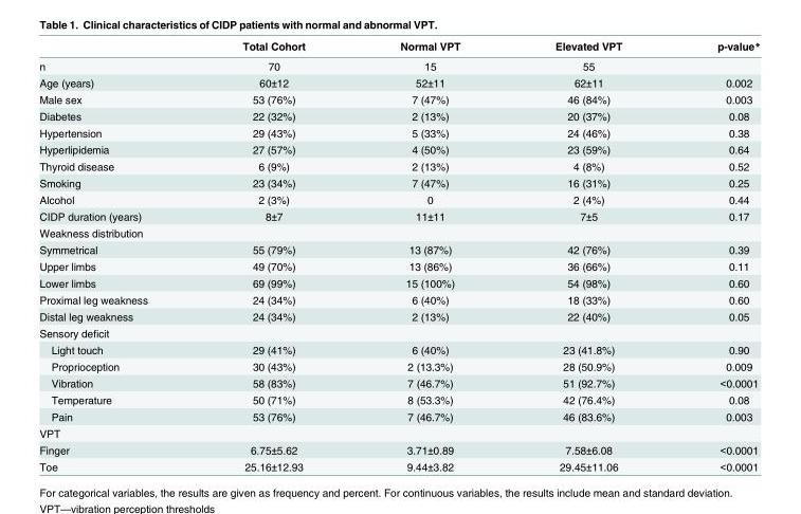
<table><thead><tr><td></td><td>Total Cohort</td><td>Normal VPT</td><td>Elevated VPT</td><td>p-value*</td></tr></thead><tbody><tr><td>n</td><td>70</td><td>15</td><td>55</td><td></td></tr><tr><td>Age (years)</td><td>60±12</td><td>52±11</td><td>62±11</td><td>0.002</td></tr><tr><td>Male sex</td><td>53 (76%)</td><td>7 (47%)</td><td>46 (84%)</td><td>0.003</td></tr><tr><td>Diabetes</td><td>22 (32%)</td><td>2 (13%)</td><td>20 (37%)</td><td>0.08</td></tr><tr><td>Hypertension</td><td>29 (43%)</td><td>5 (33%)</td><td>24 (46%)</td><td>0.38</td></tr><tr><td>Hyperlipidemia</td><td>27 (57%)</td><td>4 (50%)</td><td>23 (59%)</td><td>0.64</td></tr><tr><td>Thyroid disease</td><td>6 (9%)</td><td>2 (13%)</td><td>4 (8%)</td><td>0.52</td></tr><tr><td>Smoking</td><td>23 (34%)</td><td>7 (47%)</td><td>16 (31%)</td><td>0.25</td></tr><tr><td>Alcohol</td><td>2 (3%)</td><td>0</td><td>2 (4%)</td><td>0.44</td></tr><tr><td>CIDP duration (years)</td><td>8±7</td><td>11±11</td><td>7±5</td><td>0.17</td></tr><tr><td colspan="5">Weakness distribution</td></tr><tr><td>Symmetrical</td><td>55 (79%)</td><td>13 (87%)</td><td>42 (76%)</td><td>0.39</td></tr><tr><td>Upper limbs</td><td>49 (70%)</td><td>13 (86%)</td><td>36 (66%)</td><td>0.11</td></tr><tr><td>Lower limbs</td><td>69 (99%)</td><td>15 (100%)</td><td>54 (98%)</td><td>0.60</td></tr><tr><td>Proximal leg weakness</td><td>24 (34%)</td><td>6 (40%)</td><td>18 (33%)</td><td>0.60</td></tr><tr><td>Distal leg weakness</td><td>24 (34%)</td><td>2 (13%)</td><td>22 (40%)</td><td>0.05</td></tr><tr><td colspan="5">Sensory deficit</td></tr><tr><td>Light touch</td><td>29 (41%)</td><td>6 (40%)</td><td>23 (41.8%)</td><td>0.90</td></tr><tr><td>Proprioception</td><td>30 (43%)</td><td>2 (13.3%)</td><td>28 (50.9%)</td><td>0.009</td></tr><tr><td>Vibration</td><td>58 (83%)</td><td>7 (46.7%)</td><td>51 (92.7%)</td><td>&lt;0.0001</td></tr><tr><td>Temperature</td><td>50 (71%)</td><td>8 (53.3%)</td><td>42 (76.4%)</td><td>0.08</td></tr><tr><td>Pain</td><td>53 (76%)</td><td>7 (46.7%)</td><td>46 (83.6%)</td><td>0.003</td></tr><tr><td colspan="5">VPT</td></tr><tr><td>Finger</td><td>6.75±5.62</td><td>3.71±0.89</td><td>7.58±6.08</td><td>&lt;0.0001</td></tr><tr><td>Toe</td><td>25.16±12.93</td><td>9.44±3.82</td><td>29.45±11.06</td><td>&lt;0.0001</td></tr></tbody></table>